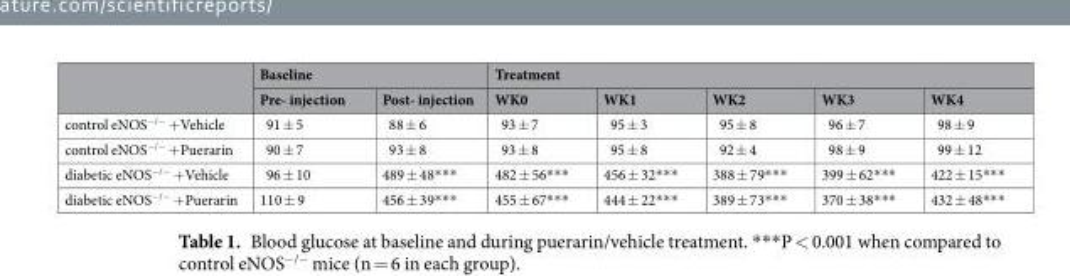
<table><thead><tr><td rowspan="2"></td><td colspan="2">Baseline</td><td colspan="5">Treatment</td></tr><tr><td>Pre- injection</td><td>Post- injection</td><td>WK0</td><td>WK1</td><td>WK2</td><td>WK3</td><td>WK4</td></tr></thead><tbody><tr><td>control eNOS<sup>−/−</sup> +Vehicle</td><td>91 ± 5</td><td>88 ± 6</td><td>93 ± 7</td><td>95 ± 3</td><td>95 ± 8</td><td>96 ± 7</td><td>98 ± 9</td></tr><tr><td>control eNOS<sup>−/−</sup> +Puerarin</td><td>90 ± 7</td><td>93 ± 8</td><td>93 ± 8</td><td>95 ± 8</td><td>92 ± 4</td><td>98 ± 9</td><td>99 ± 12</td></tr><tr><td>diabetic eNOS<sup>−/−</sup> +Vehicle</td><td>96 ± 10</td><td>489 ± 48***</td><td>482 ± 56***</td><td>456 ± 32***</td><td>388 ± 79***</td><td>399 ± 62***</td><td>422 ± 15***</td></tr><tr><td>diabetic eNOS<sup>−/−</sup> +Puerarin</td><td>110 ± 9</td><td>456 ± 39***</td><td>455 ± 67***</td><td>444 ± 22***</td><td>389 ± 73***</td><td>370 ± 38***</td><td>432 ± 48***</td></tr></tbody></table>